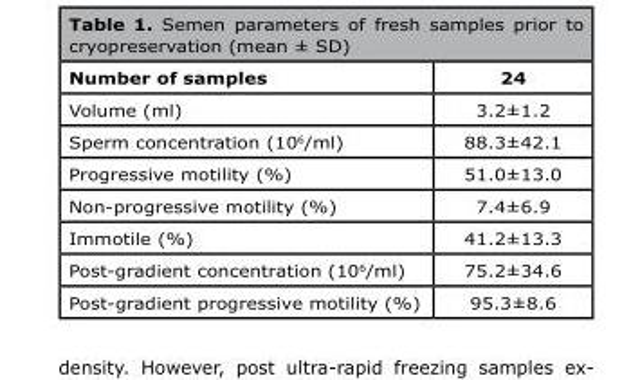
<table><thead><tr><td>Number of samples</td><td>24</td></tr></thead><tbody><tr><td>Volume (ml)</td><td>3.2±1.2</td></tr><tr><td>Sperm concentration (10<sup>6</sup>/ml)</td><td>88.3±42.1</td></tr><tr><td>Progressive motility (%)</td><td>51.0±13.0</td></tr><tr><td>Non-progressive motility (%)</td><td>7.4±6.9</td></tr><tr><td>Immotile (%)</td><td>41.2±13.3</td></tr><tr><td>Post-gradient concentration (10<sup>6</sup>/ml)</td><td>75.2±34.6</td></tr><tr><td>Post-gradient progressive motility (%)</td><td>95.3±8.6</td></tr></tbody></table>